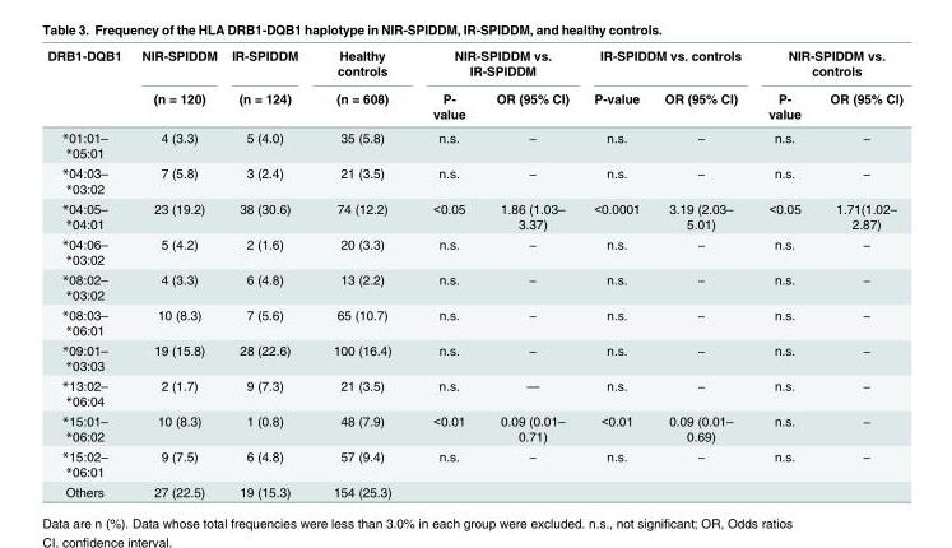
<table><thead><tr><td rowspan="2">DRB1-DQB1</td><td rowspan="2">NIR-SPIDDM (n = 120)</td><td rowspan="2">IR-SPIDDM (n = 124)</td><td rowspan="2">Healthy controls (n = 608)</td><td colspan="2">NIR-SPIDDM vs. IR-SPIDDM</td><td colspan="2">IR-SPIDDM vs. controls</td><td colspan="2">NIR-SPIDDM vs. controls</td></tr><tr><td>P- value</td><td>OR (95% CI)</td><td>P-value</td><td>OR (95% CI)</td><td>P- value</td><td>OR (95% CI)</td></tr></thead><tbody><tr><td>*01:01– *05:01</td><td>4 (3.3)</td><td>5 (4.0)</td><td>35 (5.8)</td><td>n.s.</td><td>−</td><td>n.s.</td><td>−</td><td>n.s.</td><td>−</td></tr><tr><td>*04:03– *03:02</td><td>7 (5.8)</td><td>3 (2.4)</td><td>21 (3.5)</td><td>n.s.</td><td>−</td><td>n.s.</td><td>−</td><td>n.s.</td><td>−</td></tr><tr><td>*04:05– *04:01</td><td>23 (19.2)</td><td>38 (30.6)</td><td>74 (12.2)</td><td>&lt;0.05</td><td>1.86 (1.03– 3.37)</td><td>&lt;0.0001</td><td>3.19 (2.03– 5.01)</td><td>&lt;0.05</td><td>1.71(1.02– 2.87)</td></tr><tr><td>*04:06– *03:02</td><td>5 (4.2)</td><td>2 (1.6)</td><td>20 (3.3)</td><td>n.s.</td><td>−</td><td>n.s.</td><td>−</td><td>n.s.</td><td>−</td></tr><tr><td>*08:02– *03:02</td><td>4 (3.3)</td><td>6 (4.8)</td><td>13 (2.2)</td><td>n.s.</td><td>−</td><td>n.s.</td><td>−</td><td>n.s.</td><td>−</td></tr><tr><td>*08:03– *06:01</td><td>10 (8.3)</td><td>7 (5.6)</td><td>65 (10.7)</td><td>n.s.</td><td>−</td><td>n.s.</td><td>−</td><td>n.s.</td><td>−</td></tr><tr><td>*09:01– *03:03</td><td>19 (15.8)</td><td>28 (22.6)</td><td>100 (16.4)</td><td>n.s.</td><td>−</td><td>n.s.</td><td>−</td><td>n.s.</td><td>−</td></tr><tr><td>*13:02– *06:04</td><td>2 (1.7)</td><td>9 (7.3)</td><td>21 (3.5)</td><td>n.s.</td><td>—</td><td>n.s.</td><td>−</td><td>n.s.</td><td>−</td></tr><tr><td>*15:01– *06:02</td><td>10 (8.3)</td><td>1 (0.8)</td><td>48 (7.9)</td><td>&lt;0.01</td><td>0.09 (0.01– 0.71)</td><td>&lt;0.01</td><td>0.09 (0.01– 0.69)</td><td>n.s.</td><td>−</td></tr><tr><td>*15:02– *06:01</td><td>9 (7.5)</td><td>6 (4.8)</td><td>57 (9.4)</td><td>n.s.</td><td>−</td><td>n.s.</td><td>−</td><td>n.s.</td><td>−</td></tr><tr><td>Others</td><td>27 (22.5)</td><td>19 (15.3)</td><td>154 (25.3)</td><td></td><td></td><td></td><td></td><td></td><td></td></tr></tbody></table>